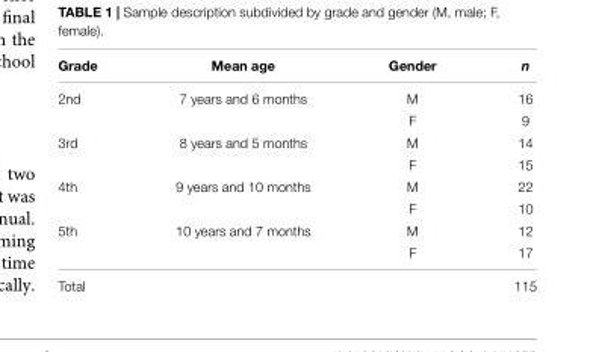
<table><thead><tr><td>Grade</td><td>Mean age</td><td>Gender</td><td>n</td></tr></thead><tbody><tr><td rowspan="2">2nd</td><td>7 years and 6 months</td><td>M</td><td>16</td></tr><tr><td></td><td>F</td><td>9</td></tr><tr><td rowspan="2">3rd</td><td>8 years and 5 months</td><td>M</td><td>14</td></tr><tr><td></td><td>F</td><td>15</td></tr><tr><td rowspan="2">4th</td><td>9 years and 10 months</td><td>M</td><td>22</td></tr><tr><td></td><td>F</td><td>10</td></tr><tr><td rowspan="2">5th</td><td>10 years and 7 months</td><td>M</td><td>12</td></tr><tr><td></td><td>F</td><td>17</td></tr><tr><td>Total</td><td></td><td></td><td>115</td></tr></tbody></table>